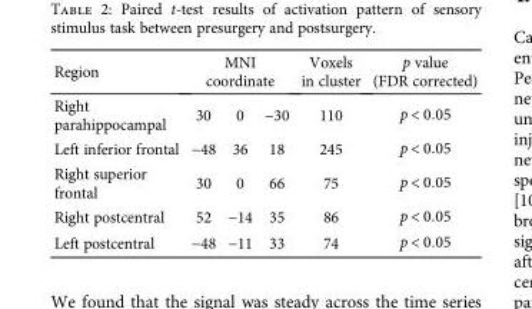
<table><thead><tr><td rowspan="2">Region Right parahippocampal</td><td colspan="3">MNI coordinate</td><td rowspan="2">Voxels in cluster 110</td><td rowspan="2">p value (FDR corrected) p &lt; 0 05</td></tr><tr><td>30</td><td>0</td><td>−30</td></tr></thead><tbody><tr><td>Left inferior frontal</td><td>−48</td><td>36</td><td>18</td><td>245</td><td>p &lt; 0 05</td></tr><tr><td>Right superior frontal</td><td>30</td><td>0</td><td>66</td><td>75</td><td>p &lt; 0 05</td></tr><tr><td>Right postcentral</td><td>52</td><td>−14</td><td>35</td><td>86</td><td>p &lt; 0 05</td></tr><tr><td>Left postcentral</td><td>−48</td><td>−11</td><td>33</td><td>74</td><td>p &lt; 0 05</td></tr></tbody></table>